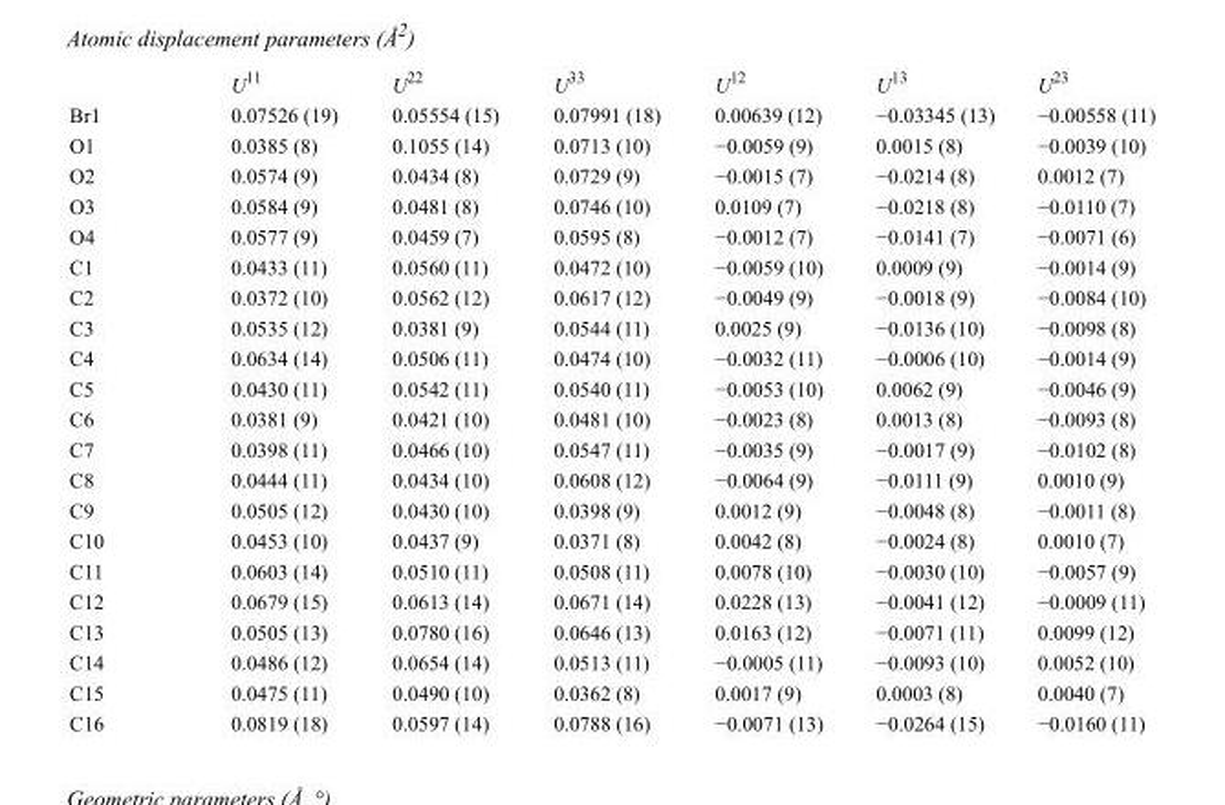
<table><thead><tr><td></td><td>U<sup>11</sup></td><td>U<sup>22</sup></td><td>U<sup>33</sup></td><td>U<sup>12</sup></td><td>U<sup>13</sup></td><td>U<sup>23</sup></td></tr></thead><tbody><tr><td>Br1</td><td>0.07526 (19)</td><td>0.05554 (15)</td><td>0.07991 (18)</td><td>0.00639 (12)</td><td>−0.03345 (13)</td><td>−0.00558 (11)</td></tr><tr><td>O1</td><td>0.0385 (8)</td><td>0.1055 (14)</td><td>0.0713 (10)</td><td>−0.0059 (9)</td><td>0.0015 (8)</td><td>−0.0039 (10)</td></tr><tr><td>O2</td><td>0.0574 (9)</td><td>0.0434 (8)</td><td>0.0729 (9)</td><td>−0.0015 (7)</td><td>−0.0214 (8)</td><td>0.0012 (7)</td></tr><tr><td>O3</td><td>0.0584 (9)</td><td>0.0481 (8)</td><td>0.0746 (10)</td><td>0.0109 (7)</td><td>−0.0218 (8)</td><td>−0.0110 (7)</td></tr><tr><td>O4</td><td>0.0577 (9)</td><td>0.0459 (7)</td><td>0.0595 (8)</td><td>−0.0012 (7)</td><td>−0.0141 (7)</td><td>−0.0071 (6)</td></tr><tr><td>C1</td><td>0.0433 (11)</td><td>0.0560 (11)</td><td>0.0472 (10)</td><td>−0.0059 (10)</td><td>0.0009 (9)</td><td>−0.0014 (9)</td></tr><tr><td>C2</td><td>0.0372 (10)</td><td>0.0562 (12)</td><td>0.0617 (12)</td><td>−0.0049 (9)</td><td>−0.0018 (9)</td><td>−0.0084 (10)</td></tr><tr><td>C3</td><td>0.0535 (12)</td><td>0.0381 (9)</td><td>0.0544 (11)</td><td>0.0025 (9)</td><td>−0.0136 (10)</td><td>−0.0098 (8)</td></tr><tr><td>C4</td><td>0.0634 (14)</td><td>0.0506 (11)</td><td>0.0474 (10)</td><td>−0.0032 (11)</td><td>−0.0006 (10)</td><td>−0.0014 (9)</td></tr><tr><td>C5</td><td>0.0430 (11)</td><td>0.0542 (11)</td><td>0.0540 (11)</td><td>−0.0053 (10)</td><td>0.0062 (9)</td><td>−0.0046 (9)</td></tr><tr><td>C6</td><td>0.0381 (9)</td><td>0.0421 (10)</td><td>0.0481 (10)</td><td>−0.0023 (8)</td><td>0.0013 (8)</td><td>−0.0093 (8)</td></tr><tr><td>C7</td><td>0.0398 (11)</td><td>0.0466 (10)</td><td>0.0547 (11)</td><td>−0.0035 (9)</td><td>−0.0017 (9)</td><td>−0.0102 (8)</td></tr><tr><td>C8</td><td>0.0444 (11)</td><td>0.0434 (10)</td><td>0.0608 (12)</td><td>−0.0064 (9)</td><td>−0.0111 (9)</td><td>0.0010 (9)</td></tr><tr><td>C9</td><td>0.0505 (12)</td><td>0.0430 (10)</td><td>0.0398 (9)</td><td>0.0012 (9)</td><td>−0.0048 (8)</td><td>−0.0011 (8)</td></tr><tr><td>C10</td><td>0.0453 (10)</td><td>0.0437 (9)</td><td>0.0371 (8)</td><td>0.0042 (8)</td><td>−0.0024 (8)</td><td>0.0010 (7)</td></tr><tr><td>C11</td><td>0.0603 (14)</td><td>0.0510 (11)</td><td>0.0508 (11)</td><td>0.0078 (10)</td><td>−0.0030 (10)</td><td>−0.0057 (9)</td></tr><tr><td>C12</td><td>0.0679 (15)</td><td>0.0613 (14)</td><td>0.0671 (14)</td><td>0.0228 (13)</td><td>−0.0041 (12)</td><td>−0.0009 (11)</td></tr><tr><td>C13</td><td>0.0505 (13)</td><td>0.0780 (16)</td><td>0.0646 (13)</td><td>0.0163 (12)</td><td>−0.0071 (11)</td><td>0.0099 (12)</td></tr><tr><td>C14</td><td>0.0486 (12)</td><td>0.0654 (14)</td><td>0.0513 (11)</td><td>−0.0005 (11)</td><td>−0.0093 (10)</td><td>0.0052 (10)</td></tr><tr><td>C15</td><td>0.0475 (11)</td><td>0.0490 (10)</td><td>0.0362 (8)</td><td>0.0017 (9)</td><td>0.0003 (8)</td><td>0.0040 (7)</td></tr><tr><td>C16</td><td>0.0819 (18)</td><td>0.0597 (14)</td><td>0.0788 (16)</td><td>−0.0071 (13)</td><td>−0.0264 (15)</td><td>−0.0160 (11)</td></tr></tbody></table>